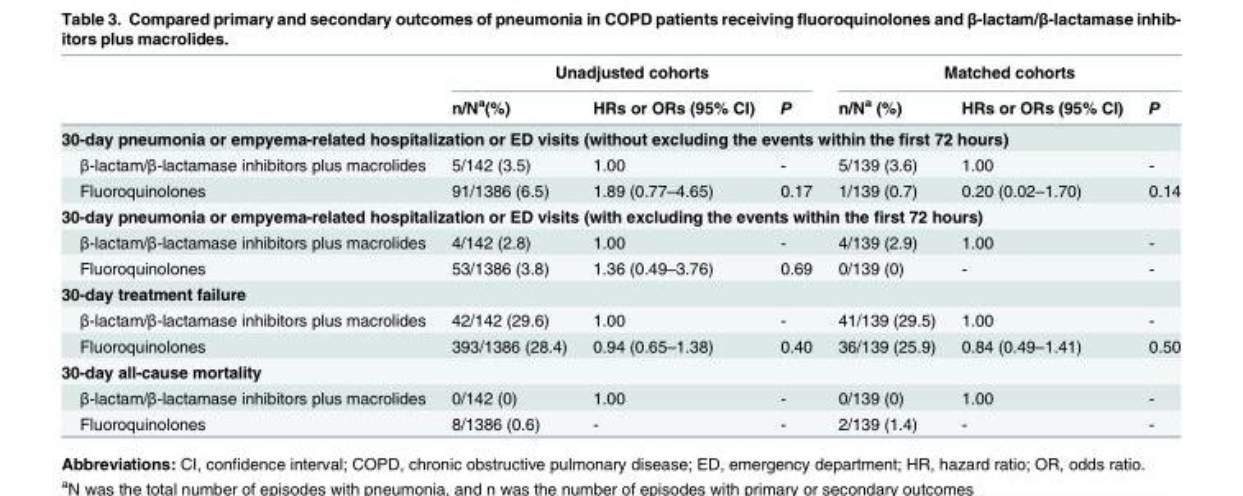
<table><thead><tr><td rowspan="2"></td><td colspan="3">Unadjusted cohorts</td><td colspan="3">Matched cohorts</td></tr><tr><td>n/N<sup>a</sup>(%)</td><td>HRs or ORs (95% CI)</td><td>P</td><td>n/N<sup>a</sup> (%)</td><td>HRs or ORs (95% CI)</td><td>P</td></tr></thead><tbody><tr><td colspan="7">30-day pneumonia or empyema-related hospitalization or ED visits (without excluding the events within the first 72 hours)</td></tr><tr><td>β-lactam/β-lactamase inhibitors plus macrolides</td><td>5/142 (3.5)</td><td>1.00</td><td>-</td><td>5/139 (3.6)</td><td>1.00</td><td>-</td></tr><tr><td>Fluoroquinolones</td><td>91/1386 (6.5)</td><td>1.89 (0.77–4.65)</td><td>0.17</td><td>1/139 (0.7)</td><td>0.20 (0.02–1.70)</td><td>0.14</td></tr><tr><td colspan="7">30-day pneumonia or empyema-related hospitalization or ED visits (with excluding the events within the first 72 hours)</td></tr><tr><td>β-lactam/β-lactamase inhibitors plus macrolides</td><td>4/142 (2.8)</td><td>1.00</td><td>-</td><td>4/139 (2.9)</td><td>1.00</td><td>-</td></tr><tr><td>Fluoroquinolones</td><td>53/1386 (3.8)</td><td>1.36 (0.49–3.76)</td><td>0.69</td><td>0/139 (0)</td><td>-</td><td>-</td></tr><tr><td colspan="7">30-day treatment failure</td></tr><tr><td>β-lactam/β-lactamase inhibitors plus macrolides</td><td>42/142 (29.6)</td><td>1.00</td><td>-</td><td>41/139 (29.5)</td><td>1.00</td><td>-</td></tr><tr><td>Fluoroquinolones</td><td>393/1386 (28.4)</td><td>0.94 (0.65–1.38)</td><td>0.40</td><td>36/139 (25.9)</td><td>0.84 (0.49–1.41)</td><td>0.50</td></tr><tr><td colspan="7">30-day all-cause mortality</td></tr><tr><td>β-lactam/β-lactamase inhibitors plus macrolides</td><td>0/142 (0)</td><td>1.00</td><td>-</td><td>0/139 (0)</td><td>1.00</td><td>-</td></tr><tr><td>Fluoroquinolones</td><td>8/1386 (0.6)</td><td>-</td><td>-</td><td>2/139 (1.4)</td><td>-</td><td>-</td></tr></tbody></table>